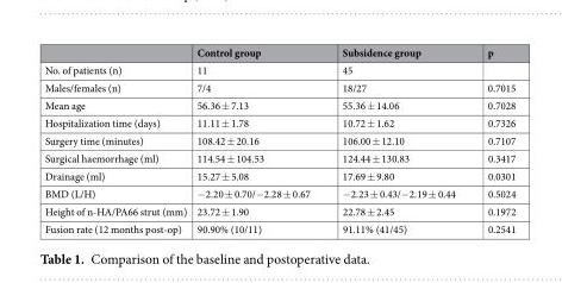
<table><thead><tr><td></td><td>Control group</td><td>Subsidence group</td><td>p</td></tr></thead><tbody><tr><td>No. of patients (n)</td><td>11</td><td>45</td><td></td></tr><tr><td>Males/females (n)</td><td>7/4</td><td>18/27</td><td>0.7015</td></tr><tr><td>Mean age</td><td>56.36 ± 7.13</td><td>55.36 ± 14.06</td><td>0.7028</td></tr><tr><td>Hospitalization time (days)</td><td>11.11 ± 1.78</td><td>10.72 ± 1.62</td><td>0.7326</td></tr><tr><td>Surgery time (minutes)</td><td>108.42 ± 20.16</td><td>106.00 ± 12.10</td><td>0.7107</td></tr><tr><td>Surgical haemorrhage (ml)</td><td>114.54 ± 104.53</td><td>124.44 ± 130.83</td><td>0.3417</td></tr><tr><td>Drainage (ml)</td><td>15.27 ± 5.08</td><td>17.69 ± 9.80</td><td>0.0301</td></tr><tr><td>BMD (L/H)</td><td>−2.20 ± 0.70/−2.28 ± 0.67</td><td>−2.23 ± 0.43/−2.19 ± 0.44</td><td>0.5024</td></tr><tr><td>Height of n-HA/PA66 strut (mm)</td><td>23.72 ± 1.90</td><td>22.78 ± 2.45</td><td>0.1972</td></tr><tr><td>Fusion rate (12 months post-op)</td><td>90.90% (10/11)</td><td>91.11% (41/45)</td><td>0.2541</td></tr></tbody></table>